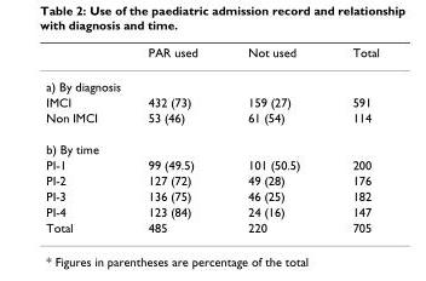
<table><thead><tr><td></td><td>PAR used</td><td>Not used</td><td>Total</td></tr></thead><tbody><tr><td colspan="4">a) By diagnosis</td></tr><tr><td>IMCI</td><td>432 (73)</td><td>159 (27)</td><td>591</td></tr><tr><td>Non IMCI</td><td>53 (46)</td><td>61 (54)</td><td>114</td></tr><tr><td colspan="4">b) By time</td></tr><tr><td>PI-1</td><td>99 (49.5)</td><td>101 (50.5)</td><td>200</td></tr><tr><td>PI-2</td><td>127 (72)</td><td>49 (28)</td><td>176</td></tr><tr><td>PI-3</td><td>136 (75)</td><td>46 (25)</td><td>182</td></tr><tr><td>PI-4</td><td>123 (84)</td><td>24 (16)</td><td>147</td></tr><tr><td>Total</td><td>485</td><td>220</td><td>705</td></tr></tbody></table>